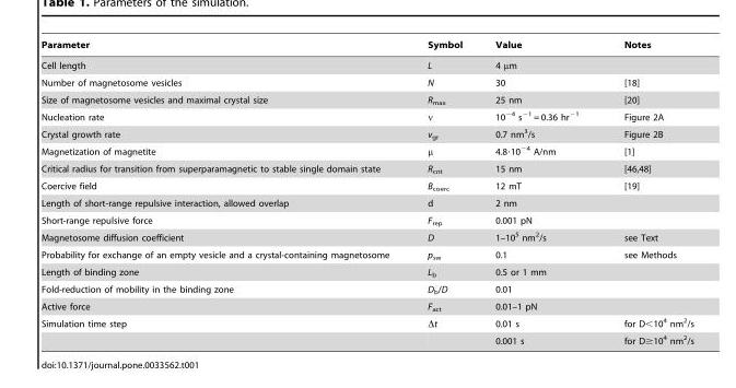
<table><thead><tr><td>Parameter</td><td>Symbol</td><td>Value</td><td>Notes</td></tr></thead><tbody><tr><td>Cell length</td><td>L</td><td>4 µm</td><td></td></tr><tr><td>Number of magnetosome vesicles</td><td>N</td><td>30</td><td>[18]</td></tr><tr><td>Size of magnetosome vesicles and maximal crystal size</td><td>R<sub>max</sub></td><td>25 nm</td><td>[20]</td></tr><tr><td>Nucleation rate</td><td>ν</td><td>10<sup>−4</sup> s<sup>−1</sup> = 0.36 hr<sup>−1</sup></td><td>Figure 2A</td></tr><tr><td>Crystal growth rate</td><td>v<sub>gr</sub></td><td>0.7 nm<sup>3</sup>/s</td><td>Figure 2B</td></tr><tr><td>Magnetization of magnetite</td><td>μ</td><td>4.8·10<sup>−4</sup> A/nm</td><td>[1]</td></tr><tr><td>Critical radius for transition from superparamagnetic to stable single domain state</td><td>R<sub>crit</sub></td><td>15 nm</td><td>[46,48]</td></tr><tr><td>Coercive field</td><td>B<sub>coerc</sub></td><td>12 mT</td><td>[19]</td></tr><tr><td>Length of short-range repulsive interaction, allowed overlap</td><td>d</td><td>2 nm</td><td></td></tr><tr><td>Short-range repulsive force</td><td>F<sub>rep</sub></td><td>0.001 pN</td><td></td></tr><tr><td>Magnetosome diffusion coefficient</td><td>D</td><td>1–10<sup>5</sup> nm<sup>2</sup>/s</td><td>see Text</td></tr><tr><td>Probability for exchange of an empty vesicle and a crystal-containing magnetosome</td><td>p<sub>sw</sub></td><td>0.1</td><td>see Methods</td></tr><tr><td>Length of binding zone</td><td>L<sub>b</sub></td><td>0.5 or 1 mm</td><td></td></tr><tr><td>Fold-reduction of mobility in the binding zone</td><td>D<sub>b</sub>/D</td><td>0.01</td><td></td></tr><tr><td>Active force</td><td>F<sub>act</sub></td><td>0.01–1 pN</td><td></td></tr><tr><td rowspan="2">Simulation time step</td><td>Δt</td><td>0.01 s</td><td>for D&lt;10<sup>4</sup> nm<sup>2</sup>/s</td></tr><tr><td></td><td>0.001 s</td><td>for D≥10<sup>4</sup> nm<sup>2</sup>/s</td></tr></tbody></table>